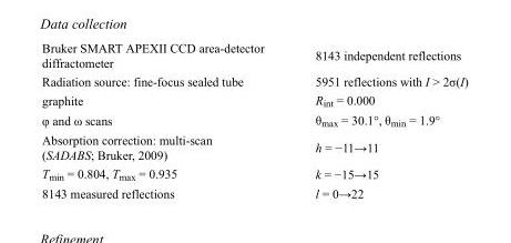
<table><tbody><tr><td>Bruker SMART APEXII CCD area-detector diffractometer</td><td>8143 independent reflections</td></tr><tr><td>Radiation source: fine-focus sealed tube</td><td>5951 reflections with I &gt; 2σ(I)</td></tr><tr><td>graphite</td><td>R<sub>int</sub> = 0.000</td></tr><tr><td>φ and ω scans</td><td>θ<sub>max</sub> = 30.1°, θ<sub>min</sub> = 1.9°</td></tr><tr><td>Absorption correction: multi-scan (SADABS; Bruker, 2009)</td><td>h = −11→11</td></tr><tr><td>T<sub>min</sub> = 0.804, T<sub>max</sub> = 0.935</td><td>k = −15→15</td></tr><tr><td>8143 measured reflections</td><td>l = 0→22</td></tr></tbody></table>